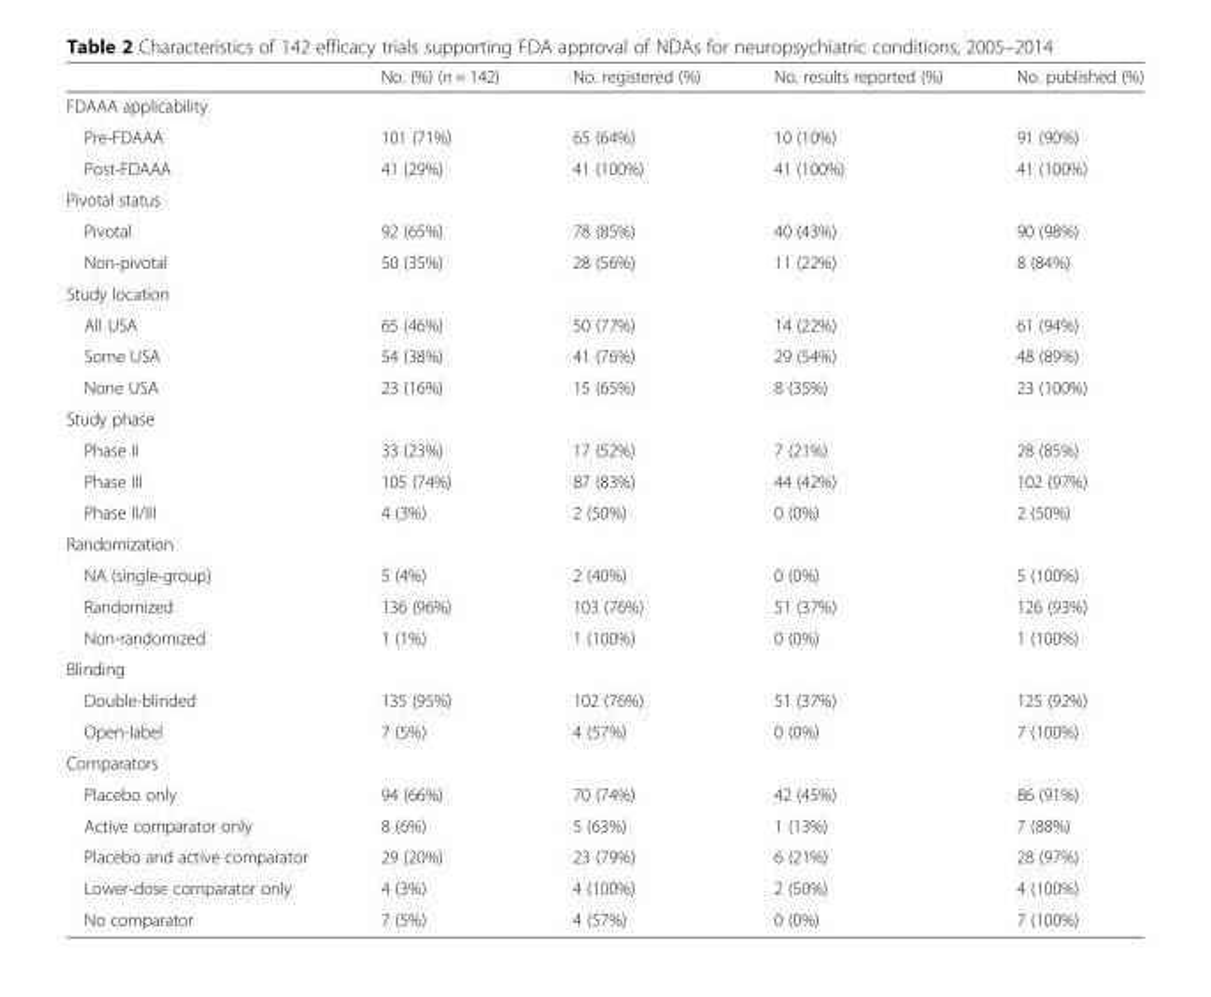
<table><thead><tr><td></td><td>No. (%) (n = 142)</td><td>No. registered (%)</td><td>No. results reported (%)</td><td>No. published (%)</td></tr></thead><tbody><tr><td colspan="5">FDAAA applicability</td></tr><tr><td>Pre-FDAAA</td><td>101 (71%)</td><td>65 (64%)</td><td>10 (10%)</td><td>91 (90%)</td></tr><tr><td>Post-FDAAA</td><td>41 (29%)</td><td>41 (100%)</td><td>41 (100%)</td><td>41 (100%)</td></tr><tr><td colspan="5">Pivotal status</td></tr><tr><td>Pivotal</td><td>92 (65%)</td><td>78 (85%)</td><td>40 (43%)</td><td>90 (98%)</td></tr><tr><td>Non-pivotal</td><td>50 (35%)</td><td>28 (56%)</td><td>11 (22%)</td><td>8 (84%)</td></tr><tr><td colspan="5">Study location</td></tr><tr><td>All USA</td><td>65 (46%)</td><td>50 (77%)</td><td>14 (22%)</td><td>61 (94%)</td></tr><tr><td>Some USA</td><td>54 (38%)</td><td>41 (76%)</td><td>29 (54%)</td><td>48 (89%)</td></tr><tr><td>None USA</td><td>23 (16%)</td><td>15 (65%)</td><td>8 (35%)</td><td>23 (100%)</td></tr><tr><td colspan="5">Study phase</td></tr><tr><td>Phase II</td><td>33 (23%)</td><td>17 (52%)</td><td>7 (21%)</td><td>28 (85%)</td></tr><tr><td>Phase III</td><td>105 (74%)</td><td>87 (83%)</td><td>44 (42%)</td><td>102 (97%)</td></tr><tr><td>Phase II/III</td><td>4 (3%)</td><td>2 (50%)</td><td>0 (0%)</td><td>2 (50%)</td></tr><tr><td colspan="5">Randomization</td></tr><tr><td>NA (single-group)</td><td>5 (4%)</td><td>2 (40%)</td><td>0 (0%)</td><td>5 (100%)</td></tr><tr><td>Randomized</td><td>136 (96%)</td><td>103 (76%)</td><td>51 (37%)</td><td>126 (93%)</td></tr><tr><td>Non-randomized</td><td>1 (1%)</td><td>1 (100%)</td><td>0 (0%)</td><td>1 (100%)</td></tr><tr><td colspan="5">Blinding</td></tr><tr><td>Double-blinded</td><td>135 (95%)</td><td>102 (76%)</td><td>51 (37%)</td><td>125 (92%)</td></tr><tr><td>Open-label</td><td>7 (5%)</td><td>4 (57%)</td><td>0 (0%)</td><td>7 (100%)</td></tr><tr><td colspan="5">Comparators</td></tr><tr><td>Placebo only</td><td>94 (66%)</td><td>70 (74%)</td><td>42 (45%)</td><td>86 (91%)</td></tr><tr><td>Active comparator only</td><td>8 (6%)</td><td>5 (63%)</td><td>1 (13%)</td><td>7 (88%)</td></tr><tr><td>Placebo and active comparator</td><td>29 (20%)</td><td>23 (79%)</td><td>6 (21%)</td><td>28 (97%)</td></tr><tr><td>Lower-dose comparator only</td><td>4 (3%)</td><td>4 (100%)</td><td>2 (50%)</td><td>4 (100%)</td></tr><tr><td>No comparator</td><td>7 (5%)</td><td>4 (57%)</td><td>0 (0%)</td><td>7 (100%)</td></tr></tbody></table>